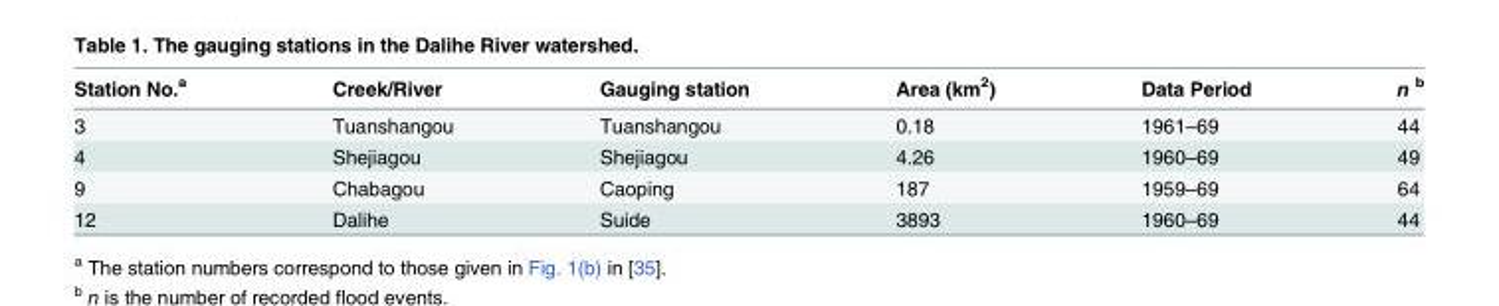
<table><thead><tr><td>Station No.<sup>a</sup></td><td>Creek/River</td><td>Gauging station</td><td>Area (km<sup>2</sup>)</td><td>Data Period</td><td>n <sup>b</sup></td></tr></thead><tbody><tr><td>3</td><td>Tuanshangou</td><td>Tuanshangou</td><td>0.18</td><td>1961–69</td><td>44</td></tr><tr><td>4</td><td>Shejiagou</td><td>Shejiagou</td><td>4.26</td><td>1960–69</td><td>49</td></tr><tr><td>9</td><td>Chabagou</td><td>Caoping</td><td>187</td><td>1959–69</td><td>64</td></tr><tr><td>12</td><td>Dalihe</td><td>Suide</td><td>3893</td><td>1960–69</td><td>44</td></tr></tbody></table>